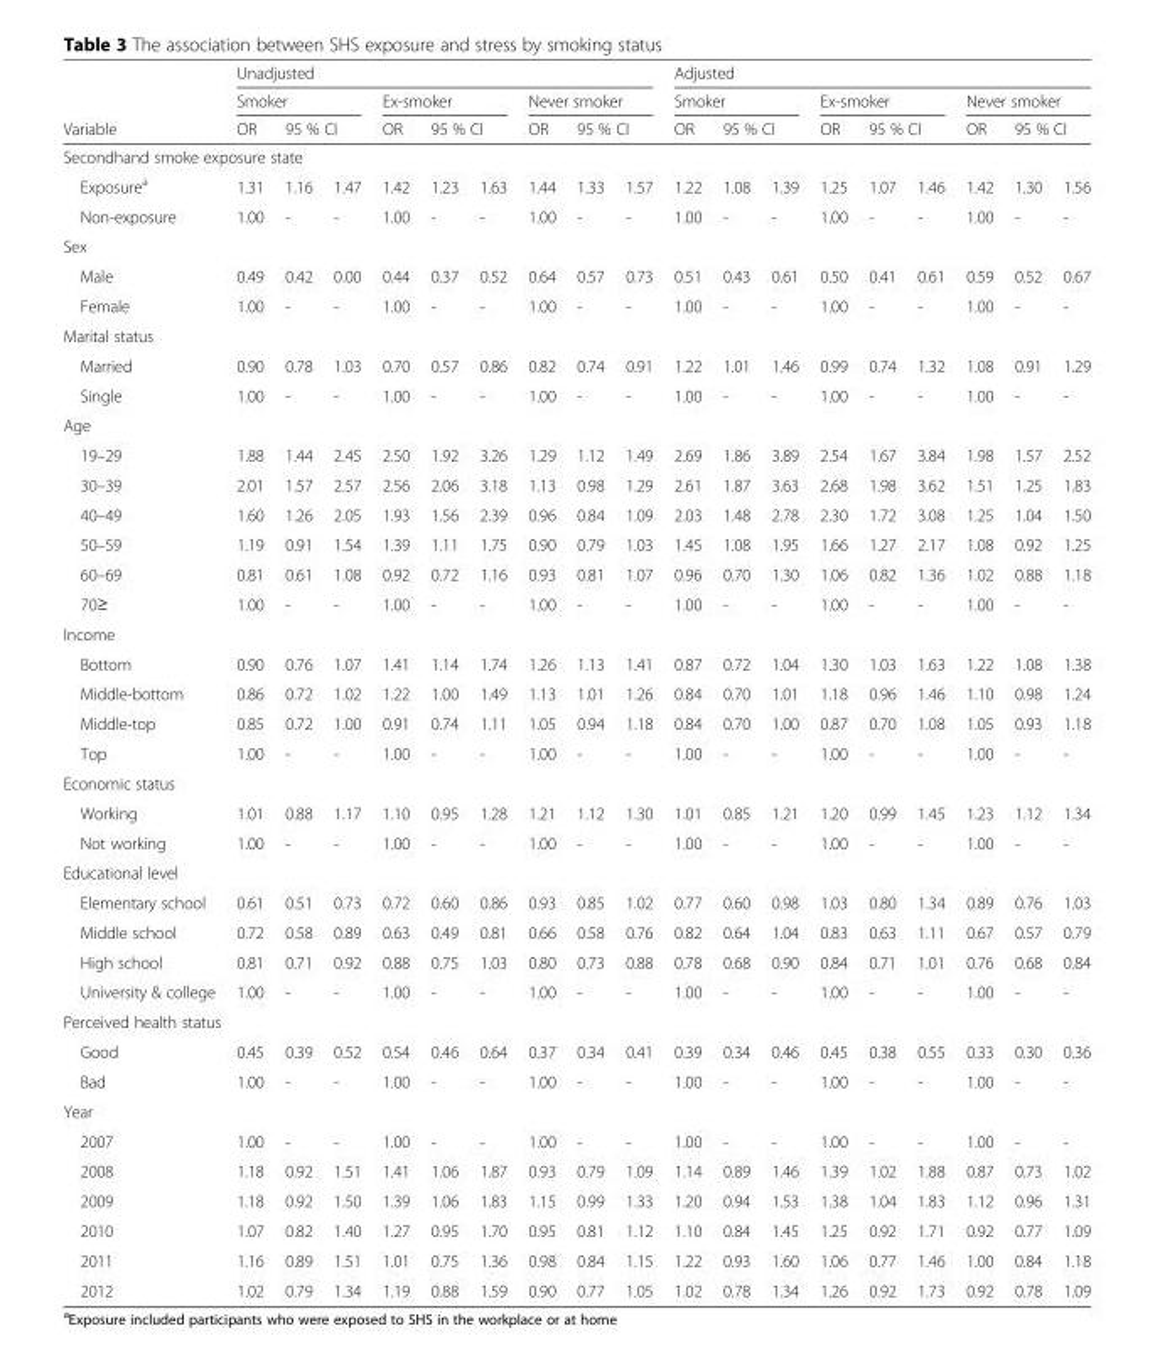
<table><thead><tr><td rowspan="3">Variable</td><td colspan="9">Unadjusted</td><td colspan="9">Adjusted</td></tr><tr><td colspan="3">Smoker</td><td colspan="3">Ex-smoker</td><td colspan="3">Never smoker</td><td colspan="3">Smoker</td><td colspan="3">Ex-smoker</td><td colspan="3">Never smoker</td></tr><tr><td>OR</td><td colspan="2">95 % CI</td><td>OR</td><td colspan="2">95 % CI</td><td>OR</td><td colspan="2">95 % CI</td><td>OR</td><td colspan="2">95 % CI</td><td>OR</td><td colspan="2">95 % CI</td><td>OR</td><td colspan="2">95 % CI</td></tr><tr><td colspan="19">Secondhand smoke exposure state</td></tr><tr><td>Exposure<sup>a</sup></td><td>1.31</td><td>1.16</td><td>1.47</td><td>1.42</td><td>1.23</td><td>1.63</td><td>1.44</td><td>1.33</td><td>1.57</td><td>1.22</td><td>1.08</td><td>1.39</td><td>1.25</td><td>1.07</td><td>1.46</td><td>1.42</td><td>1.30</td><td>1.56</td></tr></thead><tbody><tr><td>Non-exposure</td><td>1.00</td><td>-</td><td>-</td><td>1.00</td><td>-</td><td>-</td><td>1.00</td><td>-</td><td>-</td><td>1.00</td><td>-</td><td>-</td><td>1.00</td><td>-</td><td>-</td><td>1.00</td><td>-</td><td>-</td></tr><tr><td colspan="19">Sex</td></tr><tr><td>Male</td><td>0.49</td><td>0.42</td><td>0.00</td><td>0.44</td><td>0.37</td><td>0.52</td><td>0.64</td><td>0.57</td><td>0.73</td><td>0.51</td><td>0.43</td><td>0.61</td><td>0.50</td><td>0.41</td><td>0.61</td><td>0.59</td><td>0.52</td><td>0.67</td></tr><tr><td>Female</td><td>1.00</td><td>-</td><td>-</td><td>1.00</td><td>-</td><td>-</td><td>1.00</td><td>-</td><td>-</td><td>1.00</td><td>-</td><td>-</td><td>1.00</td><td>-</td><td>-</td><td>1.00</td><td>-</td><td>-</td></tr><tr><td colspan="19">Marital status</td></tr><tr><td>Married</td><td>0.90</td><td>0.78</td><td>1.03</td><td>0.70</td><td>0.57</td><td>0.86</td><td>0.82</td><td>0.74</td><td>0.91</td><td>1.22</td><td>1.01</td><td>1.46</td><td>0.99</td><td>0.74</td><td>1.32</td><td>1.08</td><td>0.91</td><td>1.29</td></tr><tr><td>Single</td><td>1.00</td><td>-</td><td>-</td><td>1.00</td><td>-</td><td>-</td><td>1.00</td><td>-</td><td>-</td><td>1.00</td><td>-</td><td>-</td><td>1.00</td><td>-</td><td>-</td><td>1.00</td><td>-</td><td>-</td></tr><tr><td colspan="19">Age</td></tr><tr><td>19–29</td><td>1.88</td><td>1.44</td><td>2.45</td><td>2.50</td><td>1.92</td><td>3.26</td><td>1.29</td><td>1.12</td><td>1.49</td><td>2.69</td><td>1.86</td><td>3.89</td><td>2.54</td><td>1.67</td><td>3.84</td><td>1.98</td><td>1.57</td><td>2.52</td></tr><tr><td>30–39</td><td>2.01</td><td>1.57</td><td>2.57</td><td>2.56</td><td>2.06</td><td>3.18</td><td>1.13</td><td>0.98</td><td>1.29</td><td>2.61</td><td>1.87</td><td>3.63</td><td>2.68</td><td>1.98</td><td>3.62</td><td>1.51</td><td>1.25</td><td>1.83</td></tr><tr><td>40–49</td><td>1.60</td><td>1.26</td><td>2.05</td><td>1.93</td><td>1.56</td><td>2.39</td><td>0.96</td><td>0.84</td><td>1.09</td><td>2.03</td><td>1.48</td><td>2.78</td><td>2.30</td><td>1.72</td><td>3.08</td><td>1.25</td><td>1.04</td><td>1.50</td></tr><tr><td>50–59</td><td>1.19</td><td>0.91</td><td>1.54</td><td>1.39</td><td>1.11</td><td>1.75</td><td>0.90</td><td>0.79</td><td>1.03</td><td>1.45</td><td>1.08</td><td>1.95</td><td>1.66</td><td>1.27</td><td>2.17</td><td>1.08</td><td>0.92</td><td>1.25</td></tr><tr><td>60–69</td><td>0.81</td><td>0.61</td><td>1.08</td><td>0.92</td><td>0.72</td><td>1.16</td><td>0.93</td><td>0.81</td><td>1.07</td><td>0.96</td><td>0.70</td><td>1.30</td><td>1.06</td><td>0.82</td><td>1.36</td><td>1.02</td><td>0.88</td><td>1.18</td></tr><tr><td>70≥</td><td>1.00</td><td>-</td><td>-</td><td>1.00</td><td>-</td><td>-</td><td>1.00</td><td>-</td><td>-</td><td>1.00</td><td>-</td><td>-</td><td>1.00</td><td>-</td><td>-</td><td>1.00</td><td>-</td><td>-</td></tr><tr><td colspan="19">Income</td></tr><tr><td>Bottom</td><td>0.90</td><td>0.76</td><td>1.07</td><td>1.41</td><td>1.14</td><td>1.74</td><td>1.26</td><td>1.13</td><td>1.41</td><td>0.87</td><td>0.72</td><td>1.04</td><td>1.30</td><td>1.03</td><td>1.63</td><td>1.22</td><td>1.08</td><td>1.38</td></tr><tr><td>Middle-bottom</td><td>0.86</td><td>0.72</td><td>1.02</td><td>1.22</td><td>1.00</td><td>1.49</td><td>1.13</td><td>1.01</td><td>1.26</td><td>0.84</td><td>0.70</td><td>1.01</td><td>1.18</td><td>0.96</td><td>1.46</td><td>1.10</td><td>0.98</td><td>1.24</td></tr><tr><td>Middle-top</td><td>0.85</td><td>0.72</td><td>1.00</td><td>0.91</td><td>0.74</td><td>1.11</td><td>1.05</td><td>0.94</td><td>1.18</td><td>0.84</td><td>0.70</td><td>1.00</td><td>0.87</td><td>0.70</td><td>1.08</td><td>1.05</td><td>0.93</td><td>1.18</td></tr><tr><td>Top</td><td>1.00</td><td>-</td><td>-</td><td>1.00</td><td>-</td><td>-</td><td>1.00</td><td>-</td><td>-</td><td>1.00</td><td>-</td><td>-</td><td>1.00</td><td>-</td><td>-</td><td>1.00</td><td>-</td><td>-</td></tr><tr><td colspan="19">Economic status</td></tr><tr><td>Working</td><td>1.01</td><td>0.88</td><td>1.17</td><td>1.10</td><td>0.95</td><td>1.28</td><td>1.21</td><td>1.12</td><td>1.30</td><td>1.01</td><td>0.85</td><td>1.21</td><td>1.20</td><td>0.99</td><td>1.45</td><td>1.23</td><td>1.12</td><td>1.34</td></tr><tr><td>Not working</td><td>1.00</td><td>-</td><td>-</td><td>1.00</td><td>-</td><td>-</td><td>1.00</td><td>-</td><td>-</td><td>1.00</td><td>-</td><td>-</td><td>1.00</td><td>-</td><td>-</td><td>1.00</td><td>-</td><td>-</td></tr><tr><td colspan="19">Educational level</td></tr><tr><td>Elementary school</td><td>0.61</td><td>0.51</td><td>0.73</td><td>0.72</td><td>0.60</td><td>0.86</td><td>0.93</td><td>0.85</td><td>1.02</td><td>0.77</td><td>0.60</td><td>0.98</td><td>1.03</td><td>0.80</td><td>1.34</td><td>0.89</td><td>0.76</td><td>1.03</td></tr><tr><td>Middle school</td><td>0.72</td><td>0.58</td><td>0.89</td><td>0.63</td><td>0.49</td><td>0.81</td><td>0.66</td><td>0.58</td><td>0.76</td><td>0.82</td><td>0.64</td><td>1.04</td><td>0.83</td><td>0.63</td><td>1.11</td><td>0.67</td><td>0.57</td><td>0.79</td></tr><tr><td>High school</td><td>0.81</td><td>0.71</td><td>0.92</td><td>0.88</td><td>0.75</td><td>1.03</td><td>0.80</td><td>0.73</td><td>0.88</td><td>0.78</td><td>0.68</td><td>0.90</td><td>0.84</td><td>0.71</td><td>1.01</td><td>0.76</td><td>0.68</td><td>0.84</td></tr><tr><td>University &amp; college</td><td>1.00</td><td>-</td><td>-</td><td>1.00</td><td>-</td><td>-</td><td>1.00</td><td>-</td><td>-</td><td>1.00</td><td>-</td><td>-</td><td>1.00</td><td>-</td><td>-</td><td>1.00</td><td>-</td><td>-</td></tr><tr><td colspan="19">Perceived health status</td></tr><tr><td>Good</td><td>0.45</td><td>0.39</td><td>0.52</td><td>0.54</td><td>0.46</td><td>0.64</td><td>0.37</td><td>0.34</td><td>0.41</td><td>0.39</td><td>0.34</td><td>0.46</td><td>0.45</td><td>0.38</td><td>0.55</td><td>0.33</td><td>0.30</td><td>0.36</td></tr><tr><td>Bad</td><td>1.00</td><td>-</td><td>-</td><td>1.00</td><td>-</td><td>-</td><td>1.00</td><td>-</td><td>-</td><td>1.00</td><td>-</td><td>-</td><td>1.00</td><td>-</td><td>-</td><td>1.00</td><td>-</td><td>-</td></tr><tr><td colspan="19">Year</td></tr><tr><td>2007</td><td>1.00</td><td>-</td><td>-</td><td>1.00</td><td>-</td><td>-</td><td>1.00</td><td>-</td><td>-</td><td>1.00</td><td>-</td><td>-</td><td>1.00</td><td>-</td><td>-</td><td>1.00</td><td>-</td><td>-</td></tr><tr><td>2008</td><td>1.18</td><td>0.92</td><td>1.51</td><td>1.41</td><td>1.06</td><td>1.87</td><td>0.93</td><td>0.79</td><td>1.09</td><td>1.14</td><td>0.89</td><td>1.46</td><td>1.39</td><td>1.02</td><td>1.88</td><td>0.87</td><td>0.73</td><td>1.02</td></tr><tr><td>2009</td><td>1.18</td><td>0.92</td><td>1.50</td><td>1.39</td><td>1.06</td><td>1.83</td><td>1.15</td><td>0.99</td><td>1.33</td><td>1.20</td><td>0.94</td><td>1.53</td><td>1.38</td><td>1.04</td><td>1.83</td><td>1.12</td><td>0.96</td><td>1.31</td></tr><tr><td>2010</td><td>1.07</td><td>0.82</td><td>1.40</td><td>1.27</td><td>0.95</td><td>1.70</td><td>0.95</td><td>0.81</td><td>1.12</td><td>1.10</td><td>0.84</td><td>1.45</td><td>1.25</td><td>0.92</td><td>1.71</td><td>0.92</td><td>0.77</td><td>1.09</td></tr><tr><td>2011</td><td>1.16</td><td>0.89</td><td>1.51</td><td>1.01</td><td>0.75</td><td>1.36</td><td>0.98</td><td>0.84</td><td>1.15</td><td>1.22</td><td>0.93</td><td>1.60</td><td>1.06</td><td>0.77</td><td>1.46</td><td>1.00</td><td>0.84</td><td>1.18</td></tr><tr><td>2012</td><td>1.02</td><td>0.79</td><td>1.34</td><td>1.19</td><td>0.88</td><td>1.59</td><td>0.90</td><td>0.77</td><td>1.05</td><td>1.02</td><td>0.78</td><td>1.34</td><td>1.26</td><td>0.92</td><td>1.73</td><td>0.92</td><td>0.78</td><td>1.09</td></tr></tbody></table>